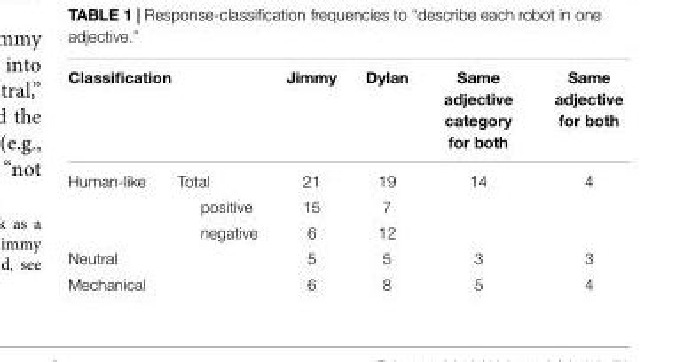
<table><thead><tr><td>Classification</td><td></td><td>Jimmy</td><td>Dylan</td><td>Same adjective category for both</td><td>Same adjective for both</td></tr></thead><tbody><tr><td rowspan="3">Human-like</td><td>Total</td><td>21</td><td>19</td><td>14</td><td>4</td></tr><tr><td>positive</td><td>15</td><td>7</td><td></td><td></td></tr><tr><td>negative</td><td>6</td><td>12</td><td></td><td></td></tr><tr><td>Neutral</td><td></td><td>5</td><td>5</td><td>3</td><td>3</td></tr><tr><td>Mechanical</td><td></td><td>6</td><td>8</td><td>5</td><td>4</td></tr></tbody></table>